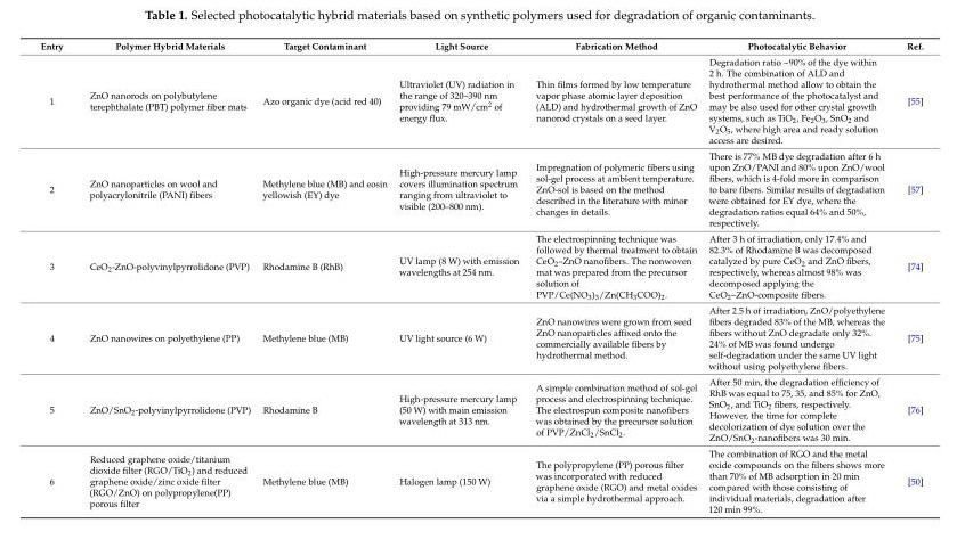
<table><thead><tr><td>Entry</td><td>Polymer Hybrid Materials</td><td>Target Contaminant</td><td>Light Source</td><td>Fabrication Method</td><td>Photocatalytic Behavior</td><td>Ref.</td></tr></thead><tbody><tr><td>1</td><td>ZnO nanorods on polybutylene terephthalate (PBT) polymer fiber mats</td><td>Azo organic dye (acid red 40)</td><td>Ultraviolet (UV) radiation in the range of 320–390 nm providing 79 mW/cm<sup>2</sup> of energy flux.</td><td>Thin films formed by low temperature vapor phase atomic layer deposition (ALD) and hydrothermal growth of ZnO nanorod crystals on a seed layer.</td><td>Degradation ratio ~90% of the dye within 2 h. The combination of ALD and hydrothermal method allow to obtain the best performance of the photocatalyst and may be also used for other crystal growth systems, such as TiO<sub>2</sub>, Fe<sub>2</sub>O<sub>3</sub>, SnO<sub>2</sub> and V<sub>2</sub>O<sub>5</sub>, where high area and ready solution access are desired.</td><td>[55]</td></tr><tr><td>2</td><td>ZnO nanoparticles on wool and polyacrylonitrile (PANI) fibers</td><td>Methylene blue (MB) and eosin yellowish (EY) dye</td><td>High-pressure mercury lamp covers illumination spectrum ranging from ultraviolet to visible (200–800 nm).</td><td>Impregnation of polymeric fibers using sol-gel process at ambient temperature. ZnO-sol is based on the method described in the literature with minor changes in details.</td><td>There is 77% MB dye degradation after 6 h upon ZnO/PANI and 80% upon ZnO/wool fibers, which is 4-fold more in comparison to bare fibers. Similar results of degradation were obtained for EY dye, where the degradation ratios equal 64% and 50%, respectively.</td><td>[57]</td></tr><tr><td>3</td><td>CeO<sub>2</sub>-ZnO-polyvinylpyrrolidone (PVP)</td><td>Rhodamine B (RhB)</td><td>UV lamp (8 W) with emission wavelengths at 254 nm.</td><td>The electrospinning technique was followed by thermal treatment to obtain CeO<sub>2</sub>–ZnO nanofibers. The nonwoven mat was prepared from the precursor solution of PVP/Ce(NO<sub>3</sub>)<sub>3</sub>/Zn(CH<sub>3</sub>COO)<sub>2</sub>.</td><td>After 3 h of irradiation, only 17.4% and 82.3% of Rhodamine B was decomposed catalyzed by pure CeO<sub>2</sub> and ZnO fibers, respectively, whereas almost 98% was decomposed applying the CeO<sub>2</sub>–ZnO-composite fibers.</td><td>[74]</td></tr><tr><td>4</td><td>ZnO nanowires on polyethylene (PP)</td><td>Methylene blue (MB)</td><td>UV light source (6 W)</td><td>ZnO nanowires were grown from seed ZnO nanoparticles affixed onto the commercially available fibers by hydrothermal method.</td><td>After 2.5 h of irradiation, ZnO/polyethylene fibers degraded 83% of the MB, whereas the fibers without ZnO degradate only 32%. 24% of MB was found undergo self-degradation under the same UV light without using polyethylene fibers.</td><td>[75]</td></tr><tr><td>5</td><td>ZnO/SnO<sub>2</sub>-polyvinylpyrrolidone (PVP)</td><td>Rhodamine B</td><td>High-pressure mercury lamp (50 W) with main emission wavelength at 313 nm.</td><td>A simple combination method of sol-gel process and electrospinning technique. The electrospun composite nanofibers was obtained by the precursor solution of PVP/ZnCl<sub>2</sub>/SnCl<sub>2</sub>.</td><td>After 50 min, the degradation efficiency of RhB was equal to 75, 35, and 85% for ZnO, SnO<sub>2</sub>, and TiO<sub>2</sub> fibers, respectively. However, the time for complete decolorization of dye solution over the ZnO/SnO<sub>2</sub>-nanofibers was 30 min.</td><td>[76]</td></tr><tr><td>6</td><td>Reduced graphene oxide/titanium dioxide filter (RGO/TiO<sub>2</sub>) and reduced graphene oxide/zinc oxide filter (RGO/ZnO) on polypropylene(PP) porous filter</td><td>Methylene blue (MB)</td><td>Halogen lamp (150 W)</td><td>The polypropylene (PP) porous filter was incorporated with reduced graphene oxide (RGO) and metal oxides via a simple hydrothermal approach.</td><td>The combination of RGO and the metal oxide compounds on the filters shows more than 70% of MB adsorption in 20 min compared with those consisting of individual materials, degradation after 120 min 99%.</td><td>[50]</td></tr></tbody></table>